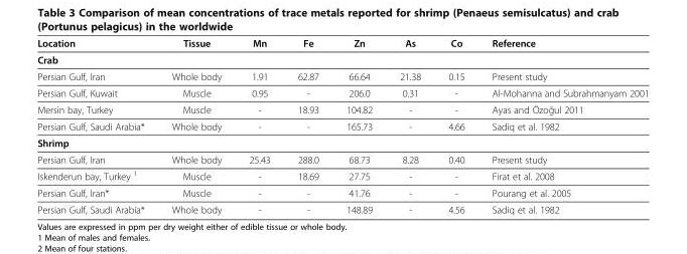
<table><thead><tr><td>Location</td><td>Tissue</td><td>Mn</td><td>Fe</td><td>Zn</td><td>As</td><td>Co</td><td>Reference</td></tr></thead><tbody><tr><td colspan="8">Crab</td></tr><tr><td>Persian Gulf, Iran</td><td>Whole body</td><td>1.91</td><td>62.87</td><td>66.64</td><td>21.38</td><td>0.15</td><td>Present study</td></tr><tr><td>Persian Gulf, Kuwait</td><td>Muscle</td><td>0.95</td><td>-</td><td>206.0</td><td>0.31</td><td>-</td><td>Al-Mohanna and Subrahmanyam 2001</td></tr><tr><td>Mersin bay, Turkey</td><td>Muscle</td><td>-</td><td>18.93</td><td>104.82</td><td>-</td><td>-</td><td>Ayas and Özoğul 2011</td></tr><tr><td>Persian Gulf, Saudi Arabia*</td><td>Whole body</td><td>-</td><td>-</td><td>165.73</td><td>-</td><td>4.66</td><td>Sadiq et al. 1982</td></tr><tr><td colspan="8">Shrimp</td></tr><tr><td>Persian Gulf, Iran</td><td>Whole body</td><td>25.43</td><td>288.0</td><td>68.73</td><td>8.28</td><td>0.40</td><td>Present study</td></tr><tr><td>Iskenderun bay, Turkey <sup>1</sup></td><td>Muscle</td><td>-</td><td>18.69</td><td>27.75</td><td>-</td><td>-</td><td>Firat et al. 2008</td></tr><tr><td>Persian Gulf, Iran*</td><td>Muscle</td><td>-</td><td>-</td><td>41.76</td><td>-</td><td>-</td><td>Pourang et al. 2005</td></tr><tr><td>Persian Gulf, Saudi Arabia*</td><td>Whole body</td><td>-</td><td>-</td><td>148.89</td><td>-</td><td>4.56</td><td>Sadiq et al. 1982</td></tr></tbody></table>